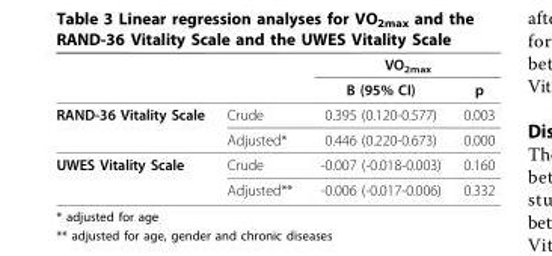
<table><thead><tr><td rowspan="2"></td><td rowspan="2"></td><td colspan="2">VO<sub>2max</sub></td></tr><tr><td>B (95% CI)</td><td>p</td></tr></thead><tbody><tr><td rowspan="2">RAND-36 Vitality Scale</td><td>Crude</td><td>0.395 (0.120-0.577)</td><td>0.003</td></tr><tr><td>Adjusted*</td><td>0.446 (0.220-0.673)</td><td>0.000</td></tr><tr><td rowspan="2">UWES Vitality Scale</td><td>Crude</td><td>-0.007 (-0.018-0.003)</td><td>0.160</td></tr><tr><td>Adjusted**</td><td>-0.006 (-0.017-0.006)</td><td>0.332</td></tr></tbody></table>